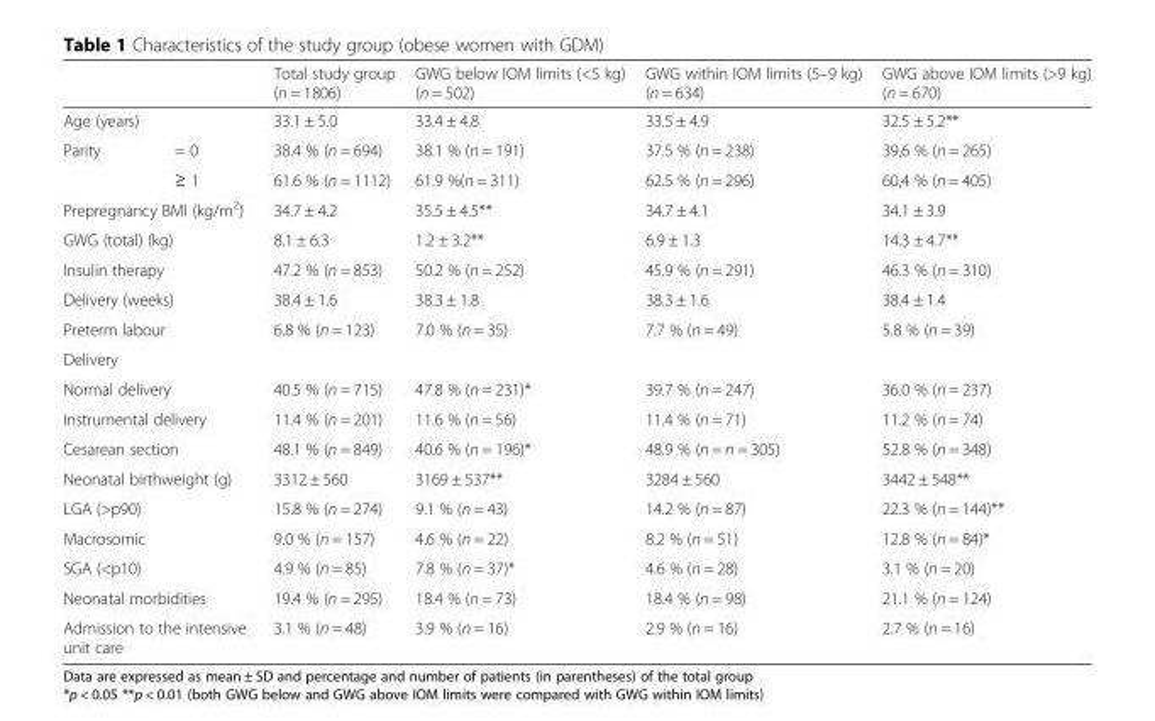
<table><thead><tr><td></td><td></td><td>Total study group (n = 1806)</td><td>GWG below IOM limits (&lt;5 kg) (n = 502)</td><td>GWG within IOM limits (5–9 kg) (n = 634)</td><td>GWG above IOM limits (&gt;9 kg) (n = 670)</td></tr></thead><tbody><tr><td colspan="2">Age (years)</td><td>33.1 ± 5.0</td><td>33.4 ± 4.8</td><td>33.5 ± 4.9</td><td>32.5 ± 5.2**</td></tr><tr><td rowspan="2">Parity</td><td>= 0</td><td>38.4 % (n = 694)</td><td>38.1 % (n = 191)</td><td>37.5 % (n = 238)</td><td>39,6 % (n = 265)</td></tr><tr><td>≥ 1</td><td>61.6 % (n = 1112)</td><td>61.9 %(n = 311)</td><td>62.5 % (n = 296)</td><td>60,4 % (n = 405)</td></tr><tr><td colspan="2">Prepregnancy BMI (kg/m<sup>2</sup>)</td><td>34.7 ± 4.2</td><td>35.5 ± 4.5**</td><td>34.7 ± 4.1</td><td>34.1 ± 3.9</td></tr><tr><td colspan="2">GWG (total) (kg)</td><td>8.1 ± 6.3</td><td>1.2 ± 3.2**</td><td>6.9 ± 1.3</td><td>14.3 ± 4.7**</td></tr><tr><td colspan="2">Insulin therapy</td><td>47.2 % (n = 853)</td><td>50.2 % (n = 252)</td><td>45.9 % (n = 291)</td><td>46.3 % (n = 310)</td></tr><tr><td colspan="2">Delivery (weeks)</td><td>38.4 ± 1.6</td><td>38.3 ± 1.8</td><td>38.3 ± 1.6</td><td>38.4 ± 1.4</td></tr><tr><td colspan="2">Preterm labour</td><td>6.8 % (n = 123)</td><td>7.0 % (n = 35)</td><td>7.7 % (n = 49)</td><td>5.8 % (n = 39)</td></tr><tr><td colspan="6">Delivery</td></tr><tr><td colspan="2">Normal delivery</td><td>40.5 % (n = 715)</td><td>47.8 % (n = 231)*</td><td>39.7 % (n = 247)</td><td>36.0 % (n = 237)</td></tr><tr><td colspan="2">Instrumental delivery</td><td>11.4 % (n = 201)</td><td>11.6 % (n = 56)</td><td>11.4 % (n = 71)</td><td>11.2 % (n = 74)</td></tr><tr><td colspan="2">Cesarean section</td><td>48.1 % (n = 849)</td><td>40.6 % (n = 196)*</td><td>48.9 % (n = n = 305)</td><td>52.8 % (n = 348)</td></tr><tr><td colspan="2">Neonatal birthweight (g)</td><td>3312 ± 560</td><td>3169 ± 537**</td><td>3284 ± 560</td><td>3442 ± 548**</td></tr><tr><td colspan="2">LGA (&gt;p90)</td><td>15.8 % (n = 274)</td><td>9.1 % (n = 43)</td><td>14.2 % (n = 87)</td><td>22.3 % (n = 144)**</td></tr><tr><td colspan="2">Macrosomic</td><td>9.0 % (n = 157)</td><td>4.6 % (n = 22)</td><td>8.2 % (n = 51)</td><td>12.8 % (n = 84)*</td></tr><tr><td colspan="2">SGA (&lt;p10)</td><td>4.9 % (n = 85)</td><td>7.8 % (n = 37)*</td><td>4.6 % (n = 28)</td><td>3.1 % (n = 20)</td></tr><tr><td colspan="2">Neonatal morbidities</td><td>19.4 % (n = 295)</td><td>18.4 % (n = 73)</td><td>18.4 % (n = 98)</td><td>21.1 % (n = 124)</td></tr><tr><td colspan="2">Admission to the intensive unit care</td><td>3.1 % (n = 48)</td><td>3.9 % (n = 16)</td><td>2.9 % (n = 16)</td><td>2.7 % (n = 16)</td></tr></tbody></table>